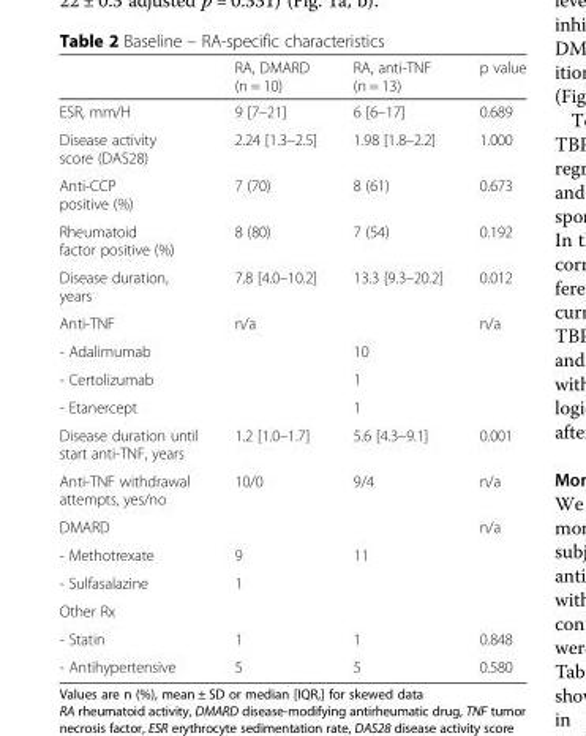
<table><thead><tr><td></td><td>RA, DMARD (n = 10)</td><td>RA, anti-TNF (n = 13)</td><td>p value</td></tr></thead><tbody><tr><td>ESR, mm/H</td><td>9 [7–21]</td><td>6 [6–17]</td><td>0.689</td></tr><tr><td>Disease activity score (DAS28)</td><td>2.24 [1.3–2.5]</td><td>1.98 [1.8–2.2]</td><td>1.000</td></tr><tr><td>Anti-CCP positive (%)</td><td>7 (70)</td><td>8 (61)</td><td>0.673</td></tr><tr><td>Rheumatoid factor positive (%)</td><td>8 (80)</td><td>7 (54)</td><td>0.192</td></tr><tr><td>Disease duration, years</td><td>7.8 [4.0–10.2]</td><td>13.3 [9.3–20.2]</td><td>0.012</td></tr><tr><td>Anti-TNF</td><td>n/a</td><td></td><td>n/a</td></tr><tr><td>- Adalimumab</td><td></td><td>10</td><td></td></tr><tr><td>- Certolizumab</td><td></td><td>1</td><td></td></tr><tr><td>- Etanercept</td><td></td><td>1</td><td></td></tr><tr><td>Disease duration until start anti-TNF, years</td><td>1.2 [1.0–1.7]</td><td>5.6 [4.3–9.1]</td><td>0.001</td></tr><tr><td>Anti-TNF withdrawal attempts, yes/no</td><td>10/0</td><td>9/4</td><td>n/a</td></tr><tr><td>DMARD</td><td></td><td></td><td>n/a</td></tr><tr><td>- Methotrexate</td><td>9</td><td>11</td><td></td></tr><tr><td>- Sulfasalazine</td><td>1</td><td></td><td></td></tr><tr><td colspan="4">Other Rx</td></tr><tr><td>- Statin</td><td>1</td><td>1</td><td>0.848</td></tr><tr><td>- Antihypertensive</td><td>5</td><td>5</td><td>0.580</td></tr></tbody></table>